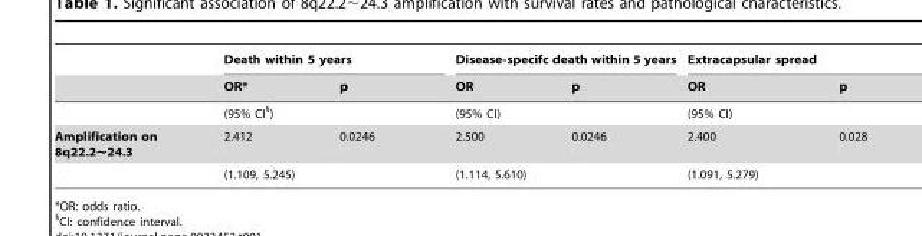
<table><thead><tr><td rowspan="2"></td><td colspan="2">Death within 5 years</td><td colspan="2">Disease-specifc death within 5 years</td><td colspan="2">Extracapsular spread</td></tr><tr><td>OR*</td><td>p</td><td>OR</td><td>p</td><td>OR</td><td>p</td></tr></thead><tbody><tr><td></td><td>(95% CI§)</td><td></td><td>(95% CI)</td><td></td><td>(95% CI)</td><td></td></tr><tr><td rowspan="2">Amplification on 8q22.2∼24.3</td><td>2.412</td><td>0.0246</td><td>2.500</td><td>0.0246</td><td>2.400</td><td>0.028</td></tr><tr><td>(1.109, 5.245)</td><td></td><td>(1.114, 5.610)</td><td></td><td>(1.091, 5.279)</td><td></td></tr></tbody></table>